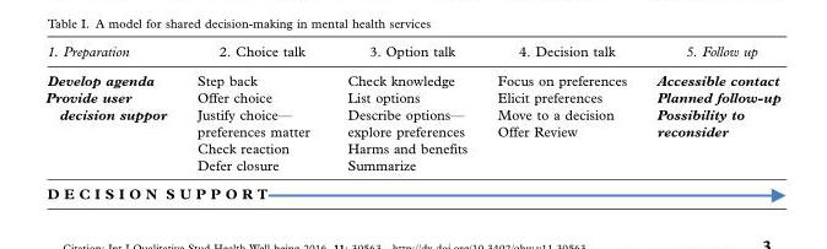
<table><thead><tr><td>1. Preparation</td><td>2. Choice talk</td><td>3. Option talk</td><td>4. Decision talk</td><td>5. Follow up</td></tr></thead><tbody><tr><td>Develop agenda Provide user decision suppor</td><td>Step back Offer choice Justify choice* preferences matter Check reaction Defer closure</td><td>Check knowledge List options Describe options* explore preferences Harms and benefits Summarize</td><td>Focus on preferences Elicit preferences Move to a decision Offer Review</td><td>Accessible contact Planned follow-up Possibility to reconsider</td></tr><tr><td colspan="5">D E C I S I O N S U P P O R T</td></tr></tbody></table>